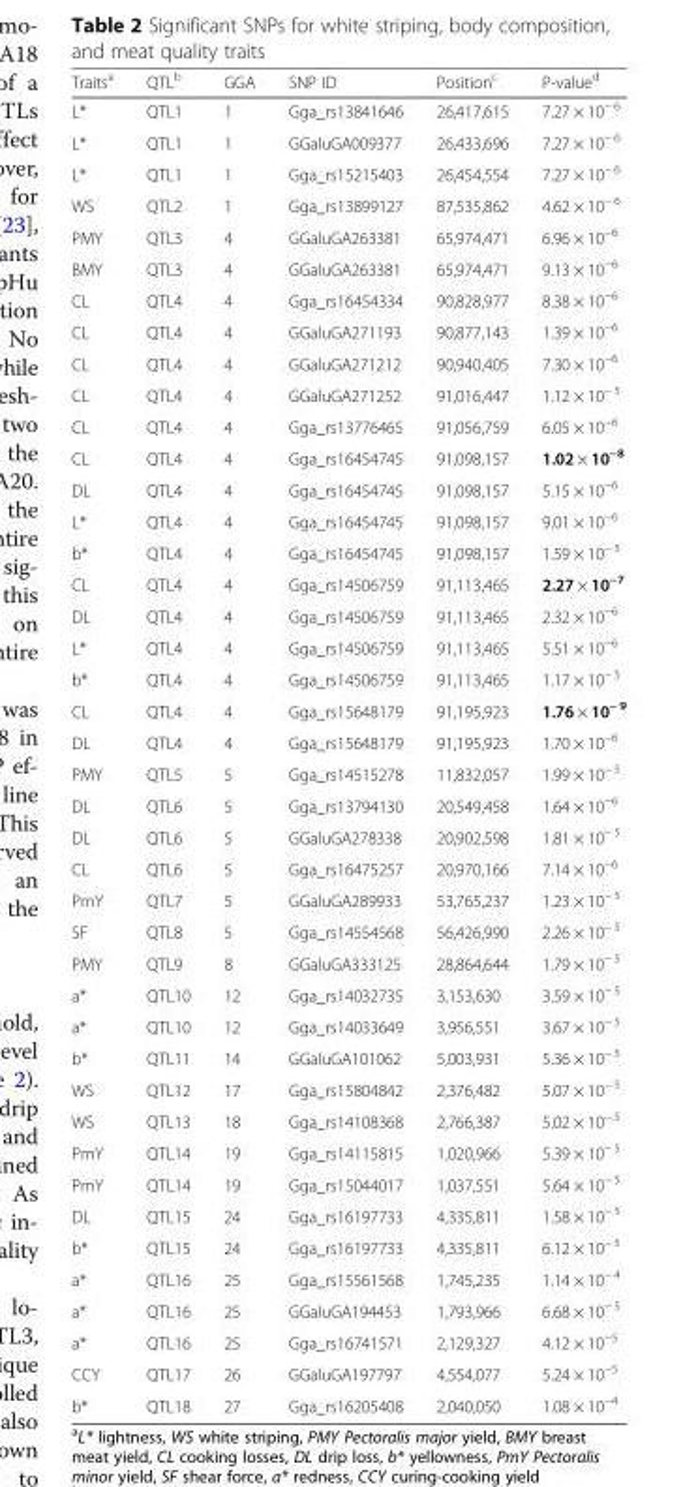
<table><thead><tr><td>Traits<sup>a</sup></td><td>QTL<sup>b</sup></td><td>GGA</td><td>SNP ID</td><td>Position<sup>c</sup></td><td>P-value<sup>d</sup></td></tr></thead><tbody><tr><td>L*</td><td>QTL1</td><td>1</td><td>Gga_rs13841646</td><td>26,417,615</td><td>7.27 × 10<sup>− 6</sup></td></tr><tr><td>L*</td><td>QTL1</td><td>1</td><td>GGaluGA009377</td><td>26,433,696</td><td>7.27 × 10<sup>− 6</sup></td></tr><tr><td>L*</td><td>QTL1</td><td>1</td><td>Gga_rs15215403</td><td>26,454,554</td><td>7.27 × 10<sup>− 6</sup></td></tr><tr><td>WS</td><td>QTL2</td><td>1</td><td>Gga_rs13899127</td><td>87,535,862</td><td>4.62 × 10<sup>− 6</sup></td></tr><tr><td>PMY</td><td>QTL3</td><td>4</td><td>GGaluGA263381</td><td>65,974,471</td><td>6.96 × 10<sup>−6</sup></td></tr><tr><td>BMY</td><td>QTL3</td><td>4</td><td>GGaluGA263381</td><td>65,974,471</td><td>9.13 × 10<sup>−6</sup></td></tr><tr><td>CL</td><td>QTL4</td><td>4</td><td>Gga_rs16454334</td><td>90,828,977</td><td>8.38 × 10<sup>−6</sup></td></tr><tr><td>CL</td><td>QTL4</td><td>4</td><td>GGaluGA271193</td><td>90,877,143</td><td>1.39 × 10<sup>−6</sup></td></tr><tr><td>CL</td><td>QTL4</td><td>4</td><td>GGaluGA271212</td><td>90,940,405</td><td>7.30 × 10<sup>−6</sup></td></tr><tr><td>CL</td><td>QTL4</td><td>4</td><td>GGaluGA271252</td><td>91,016,447</td><td>1.12 × 10<sup>− 5</sup></td></tr><tr><td>CL</td><td>QTL4</td><td>4</td><td>Gga_rs13776465</td><td>91,056,759</td><td>6.05 × 10<sup>−6</sup></td></tr><tr><td>CL</td><td>QTL4</td><td>4</td><td>Gga_rs16454745</td><td>91,098,157</td><td>1.02 × 10<sup>−8</sup></td></tr><tr><td>DL</td><td>QTL4</td><td>4</td><td>Gga_rs16454745</td><td>91,098,157</td><td>5.15 × 10<sup>−6</sup></td></tr><tr><td>L*</td><td>QTL4</td><td>4</td><td>Gga_rs16454745</td><td>91,098,157</td><td>9.01 × 10<sup>−6</sup></td></tr><tr><td>b*</td><td>QTL4</td><td>4</td><td>Gga_rs16454745</td><td>91,098,157</td><td>1.59 × 10<sup>− 5</sup></td></tr><tr><td>CL</td><td>QTL4</td><td>4</td><td>Gga_rs14506759</td><td>91,113,465</td><td>2.27 × 10<sup>−7</sup></td></tr><tr><td>DL</td><td>QTL4</td><td>4</td><td>Gga_rs14506759</td><td>91,113,465</td><td>2.32 × 10<sup>−6</sup></td></tr><tr><td>L*</td><td>QTL4</td><td>4</td><td>Gga_rs14506759</td><td>91,113,465</td><td>5.51 × 10<sup>−6</sup></td></tr><tr><td>b*</td><td>QTL4</td><td>4</td><td>Gga_rs14506759</td><td>91,113,465</td><td>1.17 × 10<sup>− 5</sup></td></tr><tr><td>CL</td><td>QTL4</td><td>4</td><td>Gga_rs15648179</td><td>91,195,923</td><td>1.76 × 10<sup>− 9</sup></td></tr><tr><td>DL</td><td>QTL4</td><td>4</td><td>Gga_rs15648179</td><td>91,195,923</td><td>1.70 × 10<sup>−6</sup></td></tr><tr><td>PMY</td><td>QTL5</td><td>5</td><td>Gga_rs14515278</td><td>11,832,057</td><td>1.99 × 10<sup>− 5</sup></td></tr><tr><td>DL</td><td>QTL6</td><td>5</td><td>Gga_rs13794130</td><td>20,549,458</td><td>1.64 × 10<sup>−6</sup></td></tr><tr><td>DL</td><td>QTL6</td><td>5</td><td>GGaluGA278338</td><td>20,902,598</td><td>1.81 × 10<sup>− 5</sup></td></tr><tr><td>CL</td><td>QTL6</td><td>5</td><td>Gga_rs16475257</td><td>20,970,166</td><td>7.14 × 10<sup>−6</sup></td></tr><tr><td>PmY</td><td>QTL7</td><td>5</td><td>GGaluGA289933</td><td>53,765,237</td><td>1.23 × 10<sup>− 5</sup></td></tr><tr><td>SF</td><td>QTL8</td><td>5</td><td>Gga_rs14554568</td><td>56,426,990</td><td>2.26 × 10<sup>− 5</sup></td></tr><tr><td>PMY</td><td>QTL9</td><td>8</td><td>GGaluGA333125</td><td>28,864,644</td><td>1.79 × 10<sup>− 5</sup></td></tr><tr><td>a*</td><td>QTL10</td><td>12</td><td>Gga_rs14032735</td><td>3,153,630</td><td>3.59 × 10<sup>− 5</sup></td></tr><tr><td>a*</td><td>QTL10</td><td>12</td><td>Gga_rs14033649</td><td>3,956,551</td><td>3.67 × 10<sup>− 5</sup></td></tr><tr><td>b*</td><td>QTL11</td><td>14</td><td>GGaluGA101062</td><td>5,003,931</td><td>5.36 × 10<sup>− 5</sup></td></tr><tr><td>WS</td><td>QTL12</td><td>17</td><td>Gga_rs15804842</td><td>2,376,482</td><td>5.07 × 10<sup>− 5</sup></td></tr><tr><td>WS</td><td>QTL13</td><td>18</td><td>Gga_rs14108368</td><td>2,766,387</td><td>5.02 × 10<sup>− 5</sup></td></tr><tr><td>PmY</td><td>QTL14</td><td>19</td><td>Gga_rs14115815</td><td>1,020,966</td><td>5.39 × 10<sup>− 5</sup></td></tr><tr><td>PmY</td><td>QTL14</td><td>19</td><td>Gga_rs15044017</td><td>1,037,551</td><td>5.64 × 10<sup>− 5</sup></td></tr><tr><td>DL</td><td>QTL15</td><td>24</td><td>Gga_rs16197733</td><td>4,335,811</td><td>1.58 × 10<sup>− 5</sup></td></tr><tr><td>b*</td><td>QTL15</td><td>24</td><td>Gga_rs16197733</td><td>4,335,811</td><td>6.12 × 10<sup>− 5</sup></td></tr><tr><td>a*</td><td>QTL16</td><td>25</td><td>Gga_rs15561568</td><td>1,745,235</td><td>1.14 × 10<sup>− 4</sup></td></tr><tr><td>a*</td><td>QTL16</td><td>25</td><td>GGaluGA194453</td><td>1,793,966</td><td>6.68 × 10<sup>− 5</sup></td></tr><tr><td>a*</td><td>QTL16</td><td>25</td><td>Gga_rs16741571</td><td>2,129,327</td><td>4.12 × 10<sup>−5</sup></td></tr><tr><td>CCY</td><td>QTL17</td><td>26</td><td>GGaluGA197797</td><td>4,554,077</td><td>5.24 × 10<sup>−5</sup></td></tr><tr><td>b*</td><td>QTL18</td><td>27</td><td>Gga_rs16205408</td><td>2,040,050</td><td>1.08 × 10<sup>−4</sup></td></tr></tbody></table>